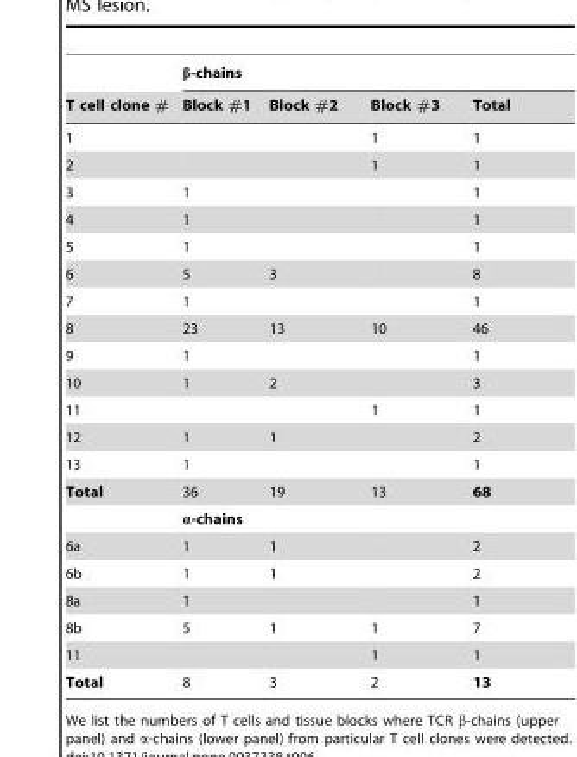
<table><thead><tr><td rowspan="2">T cell clone #</td><td colspan="4">β-chains</td></tr><tr><td>Block #1</td><td>Block #2</td><td>Block #3</td><td>Total</td></tr></thead><tbody><tr><td>1</td><td></td><td></td><td>1</td><td>1</td></tr><tr><td>2</td><td></td><td></td><td>1</td><td>1</td></tr><tr><td>3</td><td>1</td><td></td><td></td><td>1</td></tr><tr><td>4</td><td>1</td><td></td><td></td><td>1</td></tr><tr><td>5</td><td>1</td><td></td><td></td><td>1</td></tr><tr><td>6</td><td>5</td><td>3</td><td></td><td>8</td></tr><tr><td>7</td><td>1</td><td></td><td></td><td>1</td></tr><tr><td>8</td><td>23</td><td>13</td><td>10</td><td>46</td></tr><tr><td>9</td><td>1</td><td></td><td></td><td>1</td></tr><tr><td>10</td><td>1</td><td>2</td><td></td><td>3</td></tr><tr><td>11</td><td></td><td></td><td>1</td><td>1</td></tr><tr><td>12</td><td>1</td><td>1</td><td></td><td>2</td></tr><tr><td>13</td><td>1</td><td></td><td></td><td>1</td></tr><tr><td rowspan="2">Total</td><td>36</td><td>19</td><td>13</td><td>68</td></tr><tr><td colspan="4">α-chains</td></tr><tr><td>6a</td><td>1</td><td>1</td><td></td><td>2</td></tr><tr><td>6b</td><td>1</td><td>1</td><td></td><td>2</td></tr><tr><td>8a</td><td>1</td><td></td><td></td><td>1</td></tr><tr><td>8b</td><td>5</td><td>1</td><td>1</td><td>7</td></tr><tr><td>11</td><td></td><td></td><td>1</td><td>1</td></tr><tr><td>Total</td><td>8</td><td>3</td><td>2</td><td>13</td></tr></tbody></table>